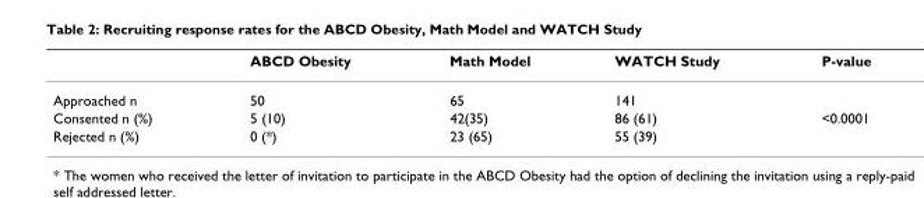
<table><thead><tr><td></td><td>ABCD Obesity</td><td>Math Model</td><td>WATCH Study</td><td>P-value</td></tr></thead><tbody><tr><td>Approached n</td><td>50</td><td>65</td><td>141</td><td></td></tr><tr><td>Consented n (%)</td><td>5 (10)</td><td>42(35)</td><td>86 (61)</td><td>&lt;0.0001</td></tr><tr><td>Rejected n (%)</td><td>0 (*)</td><td>23 (65)</td><td>55 (39)</td><td></td></tr></tbody></table>